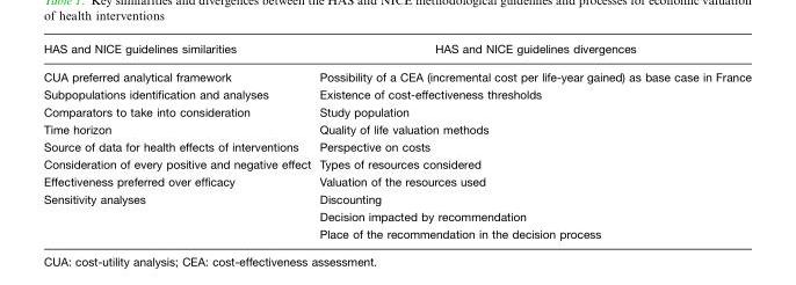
<table><thead><tr><td>HAS and NICE guidelines similarities</td><td>HAS and NICE guidelines divergences</td></tr></thead><tbody><tr><td>CUA preferred analytical framework Subpopulations identification and analyses Comparators to take into consideration Time horizon Source of data for health effects of interventions Consideration of every positive and negative effect Effectiveness preferred over efficacy Sensitivity analyses</td><td>Possibility of a CEA (incremental cost per life-year gained) as base case in France Existence of cost-effectiveness thresholds Study population Quality of life valuation methods Perspective on costs Types of resources considered Valuation of the resources used Discounting Decision impacted by recommendation Place of the recommendation in the decision process</td></tr></tbody></table>